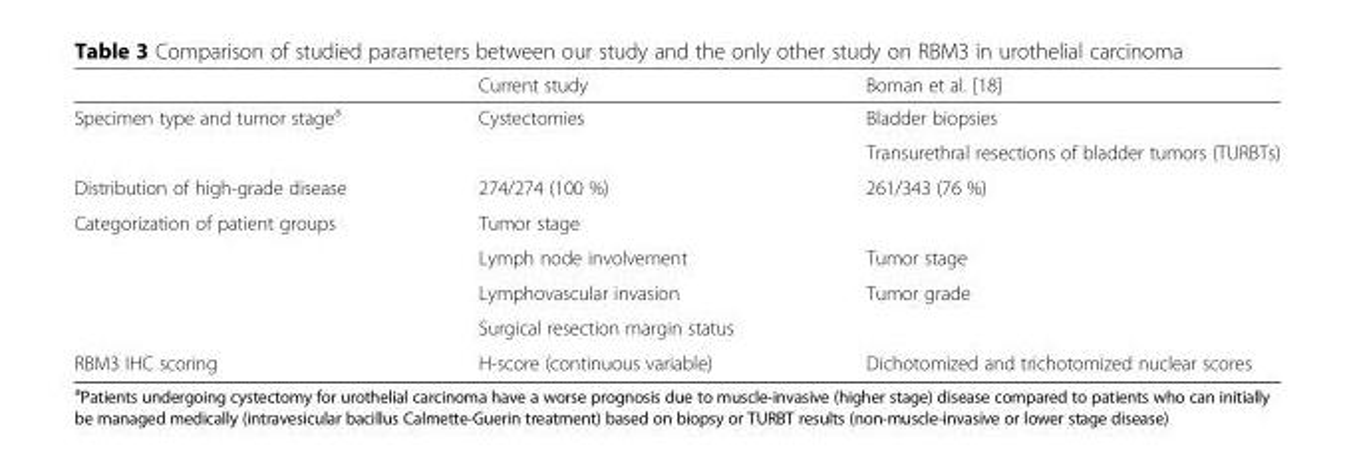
<table><thead><tr><td></td><td>Current study</td><td>Boman et al. [18]</td></tr></thead><tbody><tr><td rowspan="2">Specimen type and tumor stage<sup>a</sup></td><td rowspan="2">Cystectomies</td><td>Bladder biopsies</td></tr><tr><td>Transurethral resections of bladder tumors (TURBTs)</td></tr><tr><td>Distribution of high-grade disease</td><td>274/274 (100 %)</td><td>261/343 (76 %)</td></tr><tr><td rowspan="4">Categorization of patient groups</td><td>Tumor stage</td><td></td></tr><tr><td>Lymph node involvement</td><td>Tumor stage</td></tr><tr><td>Lymphovascular invasion</td><td>Tumor grade</td></tr><tr><td>Surgical resection margin status</td><td></td></tr><tr><td>RBM3 IHC scoring</td><td>H-score (continuous variable)</td><td>Dichotomized and trichotomized nuclear scores</td></tr></tbody></table>